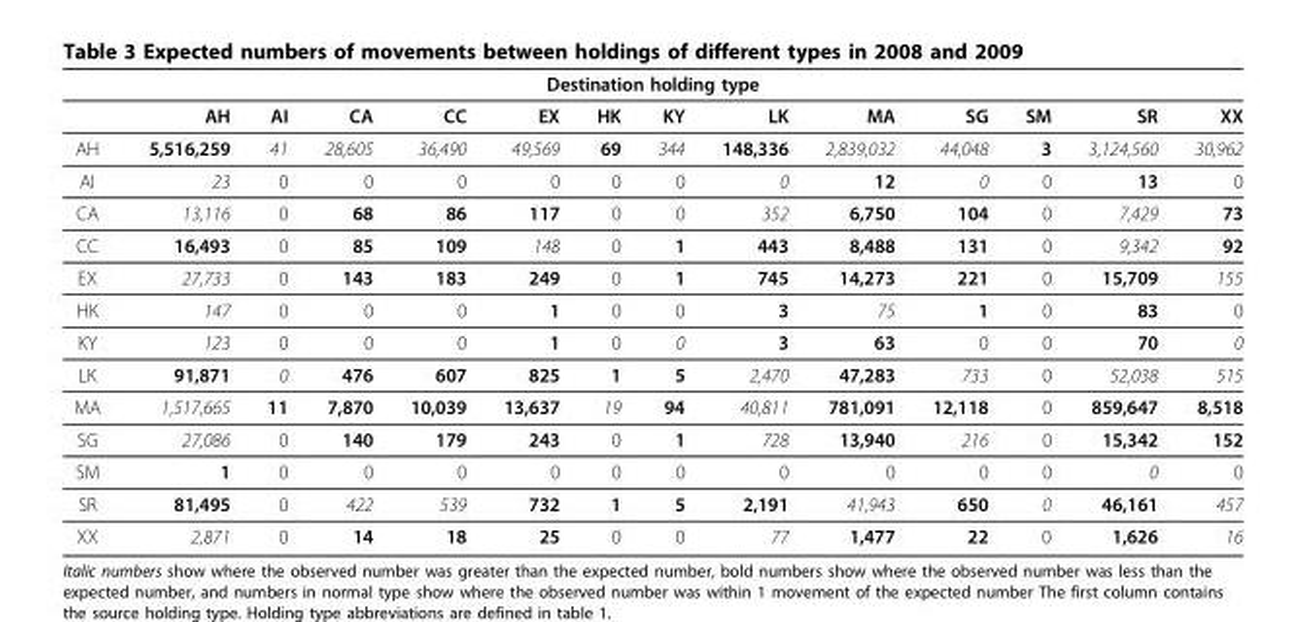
<table><thead><tr><td colspan="14">Destination holding type</td></tr><tr><td></td><td>AH</td><td>AI</td><td>CA</td><td>CC</td><td>EX</td><td>HK</td><td>KY</td><td>LK</td><td>MA</td><td>SG</td><td>SM</td><td>SR</td><td>XX</td></tr></thead><tbody><tr><td>AH</td><td>5,516,259</td><td>41</td><td>28,605</td><td>36,490</td><td>49,569</td><td>69</td><td>344</td><td>148,336</td><td>2,839,032</td><td>44,048</td><td>3</td><td>3,124,560</td><td>30,962</td></tr><tr><td>AI</td><td>23</td><td>0</td><td>0</td><td>0</td><td>0</td><td>0</td><td>0</td><td>0</td><td>12</td><td>0</td><td>0</td><td>13</td><td>0</td></tr><tr><td>CA</td><td>13,116</td><td>0</td><td>68</td><td>86</td><td>117</td><td>0</td><td>0</td><td>352</td><td>6,750</td><td>104</td><td>0</td><td>7,429</td><td>73</td></tr><tr><td>CC</td><td>16,493</td><td>0</td><td>85</td><td>109</td><td>148</td><td>0</td><td>1</td><td>443</td><td>8,488</td><td>131</td><td>0</td><td>9,342</td><td>92</td></tr><tr><td>EX</td><td>27,733</td><td>0</td><td>143</td><td>183</td><td>249</td><td>0</td><td>1</td><td>745</td><td>14,273</td><td>221</td><td>0</td><td>15,709</td><td>155</td></tr><tr><td>HK</td><td>147</td><td>0</td><td>0</td><td>0</td><td>1</td><td>0</td><td>0</td><td>3</td><td>75</td><td>1</td><td>0</td><td>83</td><td>0</td></tr><tr><td>KY</td><td>123</td><td>0</td><td>0</td><td>0</td><td>1</td><td>0</td><td>0</td><td>3</td><td>63</td><td>0</td><td>0</td><td>70</td><td>0</td></tr><tr><td>LK</td><td>91,871</td><td>0</td><td>476</td><td>607</td><td>825</td><td>1</td><td>5</td><td>2,470</td><td>47,283</td><td>733</td><td>0</td><td>52,038</td><td>515</td></tr><tr><td>MA</td><td>1,517,665</td><td>11</td><td>7,870</td><td>10,039</td><td>13,637</td><td>19</td><td>94</td><td>40,811</td><td>781,091</td><td>12,118</td><td>0</td><td>859,647</td><td>8,518</td></tr><tr><td>SG</td><td>27,086</td><td>0</td><td>140</td><td>179</td><td>243</td><td>0</td><td>1</td><td>728</td><td>13,940</td><td>216</td><td>0</td><td>15,342</td><td>152</td></tr><tr><td>SM</td><td>1</td><td>0</td><td>0</td><td>0</td><td>0</td><td>0</td><td>0</td><td>0</td><td>0</td><td>0</td><td>0</td><td>0</td><td>0</td></tr><tr><td>SR</td><td>81,495</td><td>0</td><td>422</td><td>539</td><td>732</td><td>1</td><td>5</td><td>2,191</td><td>41,943</td><td>650</td><td>0</td><td>46,161</td><td>457</td></tr><tr><td>XX</td><td>2,871</td><td>0</td><td>14</td><td>18</td><td>25</td><td>0</td><td>0</td><td>77</td><td>1,477</td><td>22</td><td>0</td><td>1,626</td><td>16</td></tr></tbody></table>